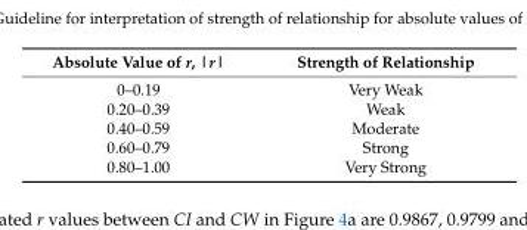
<table><thead><tr><td>Absolute Value of r, |r|</td><td>Strength of Relationship</td></tr></thead><tbody><tr><td>0–0.19</td><td>Very Weak</td></tr><tr><td>0.20–0.39</td><td>Weak</td></tr><tr><td>0.40–0.59</td><td>Moderate</td></tr><tr><td>0.60–0.79</td><td>Strong</td></tr><tr><td>0.80–1.00</td><td>Very Strong</td></tr></tbody></table>